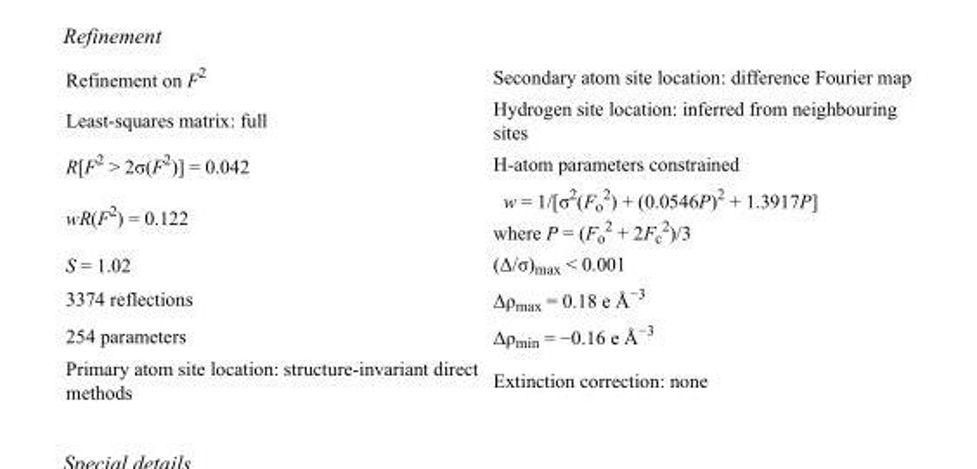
<table><tbody><tr><td>Refinement on F<sup>2</sup></td><td>Secondary atom site location: difference Fourier map</td></tr><tr><td>Least-squares matrix: full</td><td>Hydrogen site location: inferred from neighbouring sites</td></tr><tr><td>R[F<sup>2</sup> &gt; 2σ(F<sup>2</sup>)] = 0.042</td><td>H-atom parameters constrained</td></tr><tr><td>wR(F<sup>2</sup>) = 0.122</td><td>w = 1/[σ<sup>2</sup>(F<sub>o</sub> <sup>2</sup>) + (0.0546P)<sup>2</sup> + 1.3917P] where P = (F<sub>o</sub> <sup>2</sup> + 2F<sub>c</sub> <sup>2</sup>)/3</td></tr><tr><td>S = 1.02</td><td>(Δ/σ)<sub>max</sub> &lt; 0.001</td></tr><tr><td>3374 reflections</td><td>Δρ<sub>max</sub> = 0.18 e Å<sup>−3</sup></td></tr><tr><td>254 parameters</td><td>Δρ<sub>min</sub> = −0.16 e Å<sup>−3</sup></td></tr><tr><td>Primary atom site location: structure-invariant direct methods</td><td>Extinction correction: none</td></tr></tbody></table>